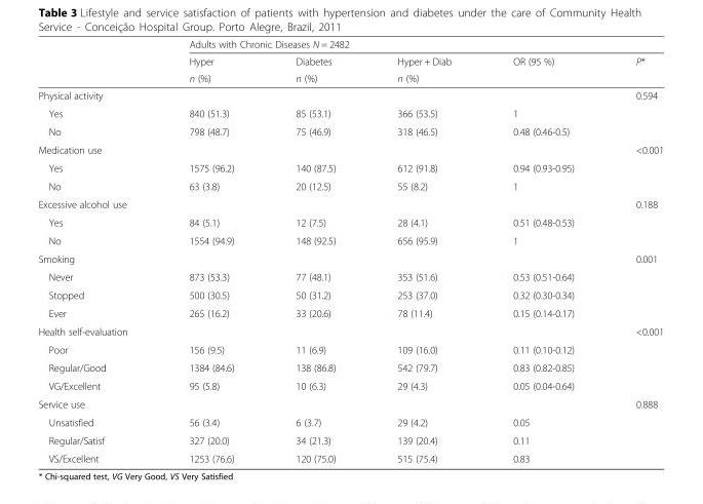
<table><thead><tr><td rowspan="3"></td><td colspan="5">Adults with Chronic Diseases N = 2482</td></tr><tr><td rowspan="2">Hyper n (%)</td><td rowspan="2">Diabetes n (%)</td><td rowspan="2">Hyper + Diab n (%)</td><td rowspan="2">OR (95 %)</td><td rowspan="2">P*</td></tr><tr></tr></thead><tbody><tr><td>Physical activity</td><td></td><td></td><td></td><td></td><td>0.594</td></tr><tr><td>Yes</td><td>840 (51.3)</td><td>85 (53.1)</td><td>366 (53.5)</td><td>1</td><td rowspan="2"></td></tr><tr><td>No</td><td>798 (48.7)</td><td>75 (46.9)</td><td>318 (46.5)</td><td>0.48 (0.46-0.5)</td></tr><tr><td>Medication use</td><td></td><td></td><td></td><td></td><td>&lt;0.001</td></tr><tr><td>Yes</td><td>1575 (96.2)</td><td>140 (87.5)</td><td>612 (91.8)</td><td>0.94 (0.93-0.95)</td><td rowspan="2"></td></tr><tr><td>No</td><td>63 (3.8)</td><td>20 (12.5)</td><td>55 (8.2)</td><td>1</td></tr><tr><td>Excessive alcohol use</td><td></td><td></td><td></td><td></td><td>0.188</td></tr><tr><td>Yes</td><td>84 (5.1)</td><td>12 (7.5)</td><td>28 (4.1)</td><td>0.51 (0.48-0.53)</td><td rowspan="2"></td></tr><tr><td>No</td><td>1554 (94.9)</td><td>148 (92.5)</td><td>656 (95.9)</td><td>1</td></tr><tr><td>Smoking</td><td></td><td></td><td></td><td></td><td>0.001</td></tr><tr><td>Never</td><td>873 (53.3)</td><td>77 (48.1)</td><td>353 (51.6)</td><td>0.53 (0.51-0.64)</td><td rowspan="3"></td></tr><tr><td>Stopped</td><td>500 (30.5)</td><td>50 (31.2)</td><td>253 (37.0)</td><td>0.32 (0.30-0.34)</td></tr><tr><td>Ever</td><td>265 (16.2)</td><td>33 (20.6)</td><td>78 (11.4)</td><td>0.15 (0.14-0.17)</td></tr><tr><td>Health self-evaluation</td><td></td><td></td><td></td><td></td><td>&lt;0.001</td></tr><tr><td>Poor</td><td>156 (9.5)</td><td>11 (6.9)</td><td>109 (16.0)</td><td>0.11 (0.10-0.12)</td><td rowspan="3"></td></tr><tr><td>Regular/Good</td><td>1384 (84.6)</td><td>138 (86.8)</td><td>542 (79.7)</td><td>0.83 (0.82-0.85)</td></tr><tr><td>VG/Excellent</td><td>95 (5.8)</td><td>10 (6.3)</td><td>29 (4.3)</td><td>0.05 (0.04-0.64)</td></tr><tr><td>Service use</td><td></td><td></td><td></td><td></td><td>0.888</td></tr><tr><td>Unsatisfied</td><td>56 (3.4)</td><td>6 (3.7)</td><td>29 (4.2)</td><td>0.05</td><td rowspan="3"></td></tr><tr><td>Regular/Satisf</td><td>327 (20.0)</td><td>34 (21.3)</td><td>139 (20.4)</td><td>0.11</td></tr><tr><td>VS/Excellent</td><td>1253 (76.6)</td><td>120 (75.0)</td><td>515 (75.4)</td><td>0.83</td></tr></tbody></table>